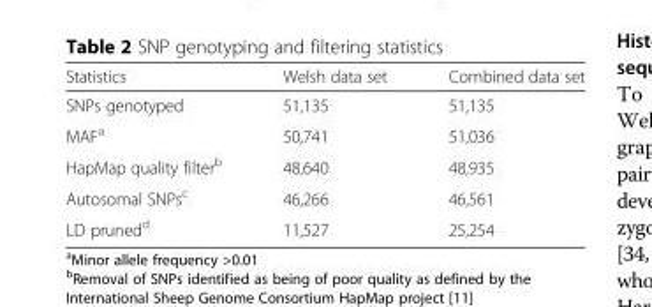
<table><thead><tr><td>Statistics</td><td>Welsh data set</td><td>Combined data set</td></tr></thead><tbody><tr><td>SNPs genotyped</td><td>51,135</td><td>51,135</td></tr><tr><td>MAF<sup>a</sup></td><td>50,741</td><td>51,036</td></tr><tr><td>HapMap quality filter<sup>b</sup></td><td>48,640</td><td>48,935</td></tr><tr><td>Autosomal SNPs<sup>c</sup></td><td>46,266</td><td>46,561</td></tr><tr><td>LD pruned<sup>d</sup></td><td>11,527</td><td>25,254</td></tr></tbody></table>